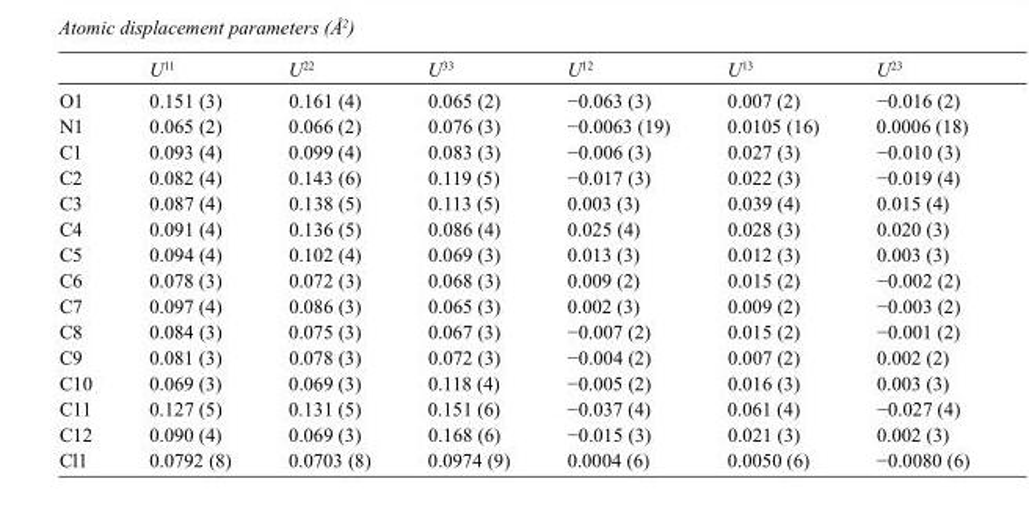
<table><thead><tr><td></td><td>U<sup>11</sup></td><td>U<sup>22</sup></td><td>U<sup>33</sup></td><td>U<sup>12</sup></td><td>U<sup>13</sup></td><td>U<sup>23</sup></td></tr></thead><tbody><tr><td>O1</td><td>0.151 (3)</td><td>0.161 (4)</td><td>0.065 (2)</td><td>−0.063 (3)</td><td>0.007 (2)</td><td>−0.016 (2)</td></tr><tr><td>N1</td><td>0.065 (2)</td><td>0.066 (2)</td><td>0.076 (3)</td><td>−0.0063 (19)</td><td>0.0105 (16)</td><td>0.0006 (18)</td></tr><tr><td>C1</td><td>0.093 (4)</td><td>0.099 (4)</td><td>0.083 (3)</td><td>−0.006 (3)</td><td>0.027 (3)</td><td>−0.010 (3)</td></tr><tr><td>C2</td><td>0.082 (4)</td><td>0.143 (6)</td><td>0.119 (5)</td><td>−0.017 (3)</td><td>0.022 (3)</td><td>−0.019 (4)</td></tr><tr><td>C3</td><td>0.087 (4)</td><td>0.138 (5)</td><td>0.113 (5)</td><td>0.003 (3)</td><td>0.039 (4)</td><td>0.015 (4)</td></tr><tr><td>C4</td><td>0.091 (4)</td><td>0.136 (5)</td><td>0.086 (4)</td><td>0.025 (4)</td><td>0.028 (3)</td><td>0.020 (3)</td></tr><tr><td>C5</td><td>0.094 (4)</td><td>0.102 (4)</td><td>0.069 (3)</td><td>0.013 (3)</td><td>0.012 (3)</td><td>0.003 (3)</td></tr><tr><td>C6</td><td>0.078 (3)</td><td>0.072 (3)</td><td>0.068 (3)</td><td>0.009 (2)</td><td>0.015 (2)</td><td>−0.002 (2)</td></tr><tr><td>C7</td><td>0.097 (4)</td><td>0.086 (3)</td><td>0.065 (3)</td><td>0.002 (3)</td><td>0.009 (2)</td><td>−0.003 (2)</td></tr><tr><td>C8</td><td>0.084 (3)</td><td>0.075 (3)</td><td>0.067 (3)</td><td>−0.007 (2)</td><td>0.015 (2)</td><td>−0.001 (2)</td></tr><tr><td>C9</td><td>0.081 (3)</td><td>0.078 (3)</td><td>0.072 (3)</td><td>−0.004 (2)</td><td>0.007 (2)</td><td>0.002 (2)</td></tr><tr><td>C10</td><td>0.069 (3)</td><td>0.069 (3)</td><td>0.118 (4)</td><td>−0.005 (2)</td><td>0.016 (3)</td><td>0.003 (3)</td></tr><tr><td>C11</td><td>0.127 (5)</td><td>0.131 (5)</td><td>0.151 (6)</td><td>−0.037 (4)</td><td>0.061 (4)</td><td>−0.027 (4)</td></tr><tr><td>C12</td><td>0.090 (4)</td><td>0.069 (3)</td><td>0.168 (6)</td><td>−0.015 (3)</td><td>0.021 (3)</td><td>0.002 (3)</td></tr><tr><td>Cl1</td><td>0.0792 (8)</td><td>0.0703 (8)</td><td>0.0974 (9)</td><td>0.0004 (6)</td><td>0.0050 (6)</td><td>−0.0080 (6)</td></tr></tbody></table>